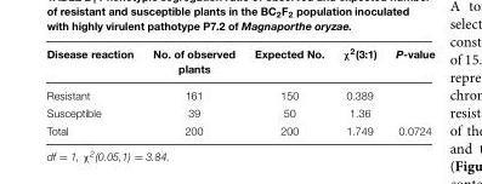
<table><thead><tr><td>Disease reaction</td><td>No. of observed plants</td><td>Expected No.</td><td>χ<sup>2</sup>(3:1)</td><td>P-value</td></tr></thead><tbody><tr><td>Resistant</td><td>161</td><td>150</td><td>0.389</td><td></td></tr><tr><td>Susceptible</td><td>39</td><td>50</td><td>1.36</td><td></td></tr><tr><td>Total</td><td>200</td><td>200</td><td>1.749</td><td>0.0724</td></tr></tbody></table>